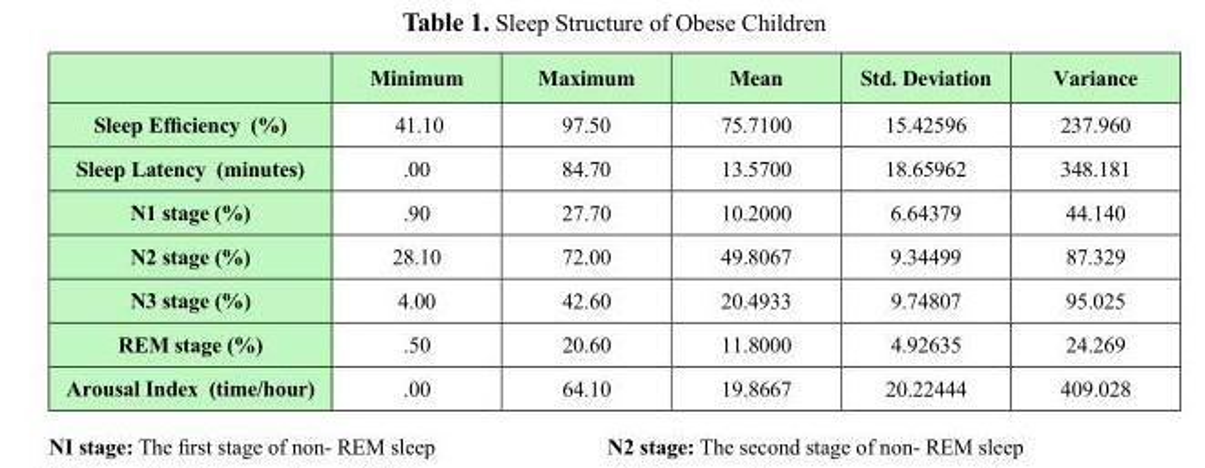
<table><thead><tr><td></td><td>Minimum</td><td>Maximum</td><td>Mean</td><td>Std. Deviation</td><td>Variance</td></tr></thead><tbody><tr><td>Sleep Efficiency (%)</td><td>41.10</td><td>97.50</td><td>75.7100</td><td>15.42596</td><td>237.960</td></tr><tr><td>Sleep Latency (minutes)</td><td>.00</td><td>84.70</td><td>13.5700</td><td>18.65962</td><td>348.181</td></tr><tr><td>N1 stage (%)</td><td>.90</td><td>27.70</td><td>10.2000</td><td>6.64379</td><td>44.140</td></tr><tr><td>N2 stage (%)</td><td>28.10</td><td>72.00</td><td>49.8067</td><td>9.34499</td><td>87.329</td></tr><tr><td>N3 stage (%)</td><td>4.00</td><td>42.60</td><td>20.4933</td><td>9.74807</td><td>95.025</td></tr><tr><td>REM stage (%)</td><td>.50</td><td>20.60</td><td>11.8000</td><td>4.92635</td><td>24.269</td></tr><tr><td>Arousal Index (time/hour)</td><td>.00</td><td>64.10</td><td>19.8667</td><td>20.22444</td><td>409.028</td></tr></tbody></table>